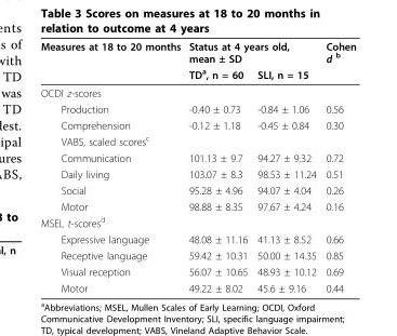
<table><thead><tr><td rowspan="2">Measures at 18 to 20 months</td><td colspan="2">Status at 4 years old, mean ± SD</td><td rowspan="2">Cohen d <sup>b</sup></td></tr><tr><td>TD<sup>a</sup>, n = 60</td><td>SLI, n = 15</td></tr></thead><tbody><tr><td colspan="4">OCDI z-scores</td></tr><tr><td>Production</td><td>-0.40 ± 0.73</td><td>-0.84 ± 1.06</td><td>0.56</td></tr><tr><td>Comprehension</td><td>-0.12 ± 1.18</td><td>-0.45 ± 0.84</td><td>0.30</td></tr><tr><td colspan="4">VABS, scaled scores<sup>c</sup></td></tr><tr><td>Communication</td><td>101.13 ± 9.7</td><td>94.27 ± 9.32</td><td>0.72</td></tr><tr><td>Daily living</td><td>103.07 ± 8.3</td><td>98.53 ± 11.24</td><td>0.51</td></tr><tr><td>Social</td><td>95.28 ± 4.96</td><td>94.07 ± 4.04</td><td>0.26</td></tr><tr><td>Motor</td><td>98.88 ± 8.35</td><td>97.67 ± 4.24</td><td>0.16</td></tr><tr><td colspan="4">MSEL t-scores<sup>d</sup></td></tr><tr><td>Expressive language</td><td>48.08 ± 11.16</td><td>41.13 ± 8.52</td><td>0.66</td></tr><tr><td>Receptive language</td><td>59.42 ± 10.31</td><td>50.00 ± 14.35</td><td>0.85</td></tr><tr><td>Visual reception</td><td>56.07 ± 10.65</td><td>48.93 ± 10.12</td><td>0.69</td></tr><tr><td>Motor</td><td>49.22 ± 8.02</td><td>45.6 ± 9.16</td><td>0.44</td></tr></tbody></table>